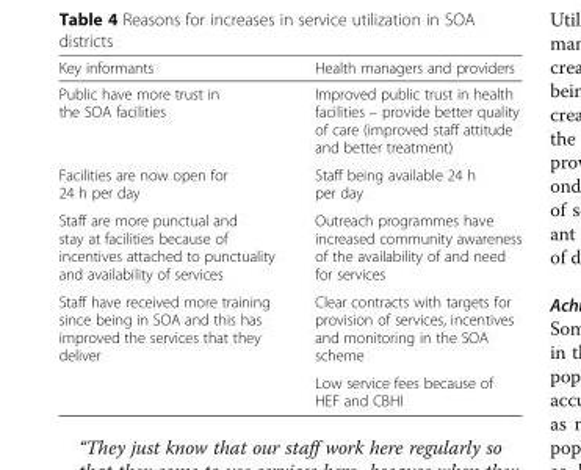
<table><thead><tr><td>Key informants</td><td>Health managers and providers</td></tr></thead><tbody><tr><td>Public have more trust in the SOA facilities</td><td>Improved public trust in health facilities – provide better quality of care (improved staff attitude and better treatment)</td></tr><tr><td>Facilities are now open for 24 h per day</td><td>Staff being available 24 h per day</td></tr><tr><td>Staff are more punctual and stay at facilities because of incentives attached to punctuality and availability of services</td><td>Outreach programmes have increased community awareness of the availability of and need for services</td></tr><tr><td rowspan="2">Staff have received more training since being in SOA and this has improved the services that they deliver</td><td>Clear contracts with targets for provision of services, incentives and monitoring in the SOA scheme</td></tr><tr><td>Low service fees because of HEF and CBHI</td></tr></tbody></table>